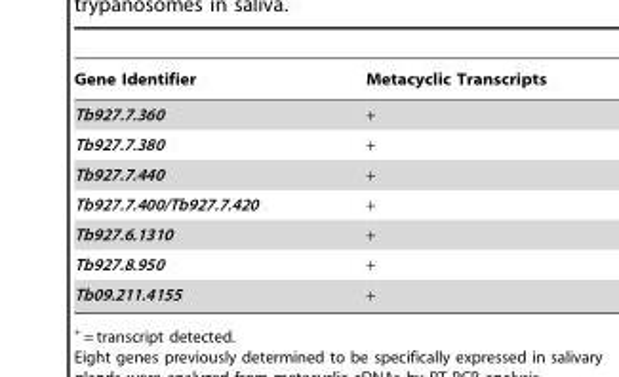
<table><thead><tr><td>Gene Identifier</td><td>Metacyclic Transcripts</td></tr></thead><tbody><tr><td>Tb927.7.360</td><td>+</td></tr><tr><td>Tb927.7.380</td><td>+</td></tr><tr><td>Tb927.7.440</td><td>+</td></tr><tr><td>Tb927.7.400/Tb927.7.420</td><td>+</td></tr><tr><td>Tb927.6.1310</td><td>+</td></tr><tr><td>Tb927.8.950</td><td>+</td></tr><tr><td>Tb09.211.4155</td><td>+</td></tr></tbody></table>